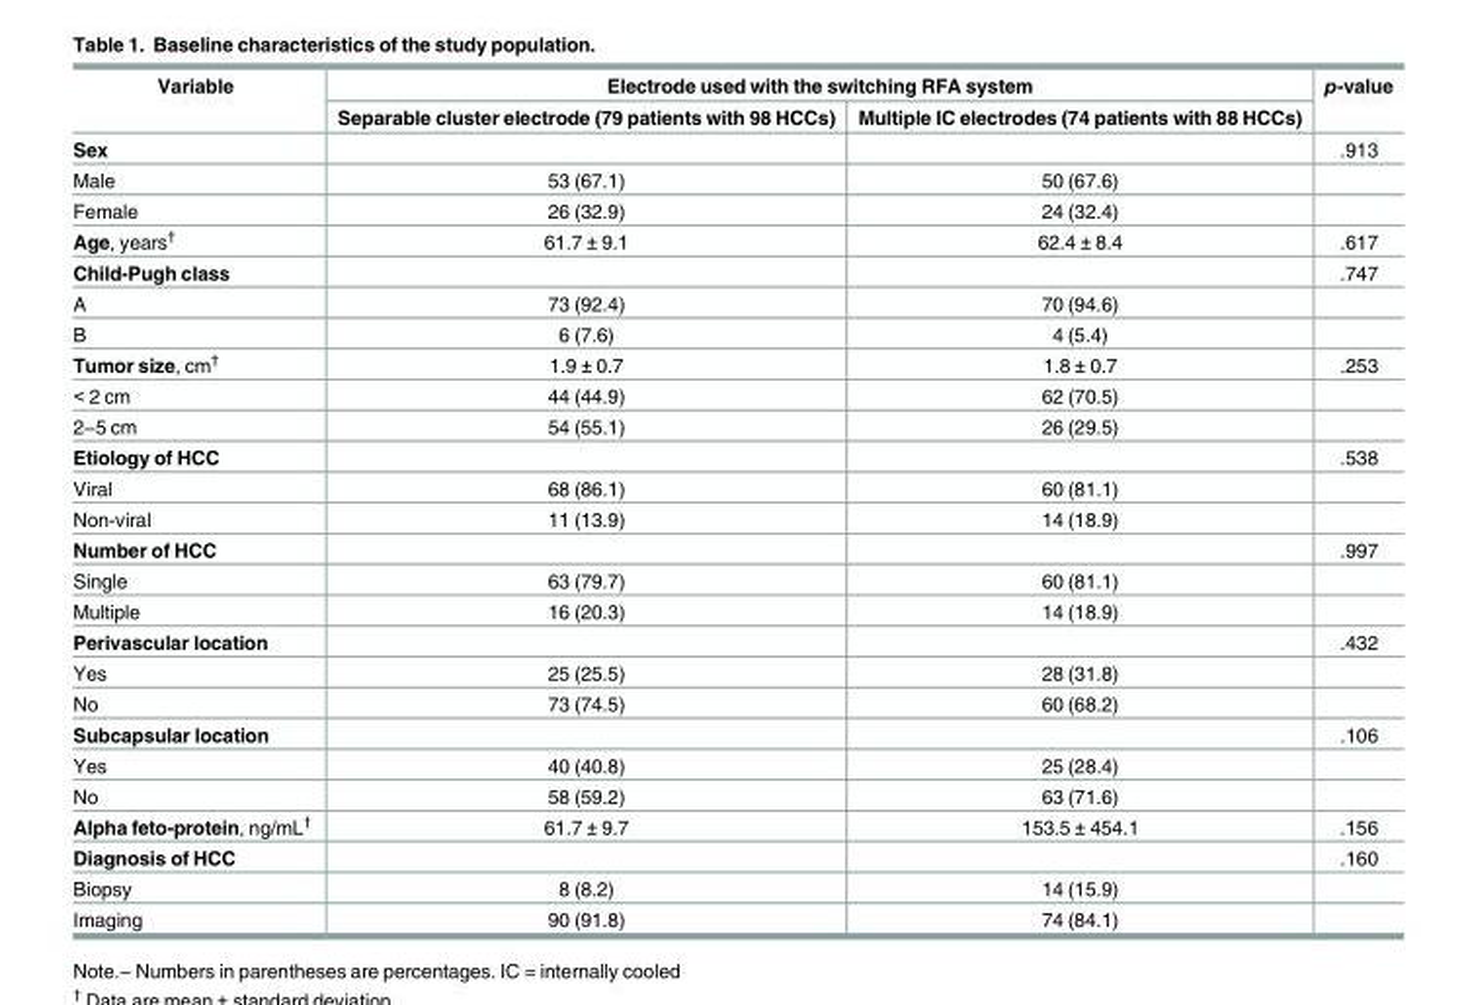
<table><thead><tr><td rowspan="2">Variable</td><td colspan="2">Electrode used with the switching RFA system</td><td rowspan="2">p-value</td></tr><tr><td>Separable cluster electrode (79 patients with 98 HCCs)</td><td>Multiple IC electrodes (74 patients with 88 HCCs)</td></tr></thead><tbody><tr><td>Sex</td><td></td><td></td><td>.913</td></tr><tr><td>Male</td><td>53 (67.1)</td><td>50 (67.6)</td><td></td></tr><tr><td>Female</td><td>26 (32.9)</td><td>24 (32.4)</td><td></td></tr><tr><td>Age, years<sup>†</sup></td><td>61.7 ± 9.1</td><td>62.4 ± 8.4</td><td>.617</td></tr><tr><td>Child-Pugh class</td><td></td><td></td><td>.747</td></tr><tr><td>A</td><td>73 (92.4)</td><td>70 (94.6)</td><td></td></tr><tr><td>B</td><td>6 (7.6)</td><td>4 (5.4)</td><td></td></tr><tr><td>Tumor size, cm<sup>†</sup></td><td>1.9 ± 0.7</td><td>1.8 ± 0.7</td><td>.253</td></tr><tr><td>&lt; 2 cm</td><td>44 (44.9)</td><td>62 (70.5)</td><td></td></tr><tr><td>2−5 cm</td><td>54 (55.1)</td><td>26 (29.5)</td><td></td></tr><tr><td>Etiology of HCC</td><td></td><td></td><td>.538</td></tr><tr><td>Viral</td><td>68 (86.1)</td><td>60 (81.1)</td><td></td></tr><tr><td>Non-viral</td><td>11 (13.9)</td><td>14 (18.9)</td><td></td></tr><tr><td>Number of HCC</td><td></td><td></td><td>.997</td></tr><tr><td>Single</td><td>63 (79.7)</td><td>60 (81.1)</td><td></td></tr><tr><td>Multiple</td><td>16 (20.3)</td><td>14 (18.9)</td><td></td></tr><tr><td>Perivascular location</td><td></td><td></td><td>.432</td></tr><tr><td>Yes</td><td>25 (25.5)</td><td>28 (31.8)</td><td></td></tr><tr><td>No</td><td>73 (74.5)</td><td>60 (68.2)</td><td></td></tr><tr><td>Subcapsular location</td><td></td><td></td><td>.106</td></tr><tr><td>Yes</td><td>40 (40.8)</td><td>25 (28.4)</td><td></td></tr><tr><td>No</td><td>58 (59.2)</td><td>63 (71.6)</td><td></td></tr><tr><td>Alpha feto-protein, ng/mL<sup>†</sup></td><td>61.7 ± 9.7</td><td>153.5 ± 454.1</td><td>.156</td></tr><tr><td>Diagnosis of HCC</td><td></td><td></td><td>.160</td></tr><tr><td>Biopsy</td><td>8 (8.2)</td><td>14 (15.9)</td><td></td></tr><tr><td>Imaging</td><td>90 (91.8)</td><td>74 (84.1)</td><td></td></tr></tbody></table>